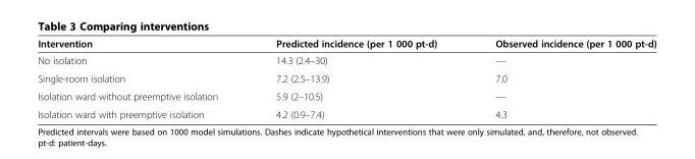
<table><thead><tr><td>Intervention</td><td>Predicted incidence (per 1 000 pt-d)</td><td>Observed incidence (per 1 000 pt-d)</td></tr></thead><tbody><tr><td>No isolation</td><td>14.3 (2.4–30)</td><td>—</td></tr><tr><td>Single-room isolation</td><td>7.2 (2.5–13.9)</td><td>7.0</td></tr><tr><td>Isolation ward without preemptive isolation</td><td>5.9 (2–10.5)</td><td>—</td></tr><tr><td>Isolation ward with preemptive isolation</td><td>4.2 (0.9–7.4)</td><td>4.3</td></tr></tbody></table>